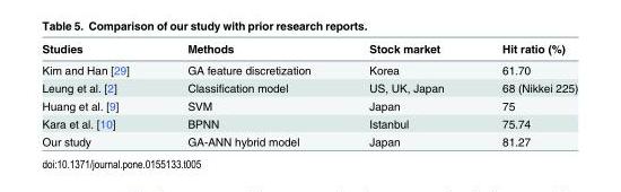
<table><thead><tr><td>Studies</td><td>Methods</td><td>Stock market</td><td>Hit ratio (%)</td></tr></thead><tbody><tr><td>Kim and Han [29]</td><td>GA feature discretization</td><td>Korea</td><td>61.70</td></tr><tr><td>Leung et al. [2]</td><td>Classification model</td><td>US, UK, Japan</td><td>68 (Nikkei 225)</td></tr><tr><td>Huang et al. [9]</td><td>SVM</td><td>Japan</td><td>75</td></tr><tr><td>Kara et al. [10]</td><td>BPNN</td><td>Istanbul</td><td>75.74</td></tr><tr><td>Our study</td><td>GA-ANN hybrid model</td><td>Japan</td><td>81.27</td></tr></tbody></table>